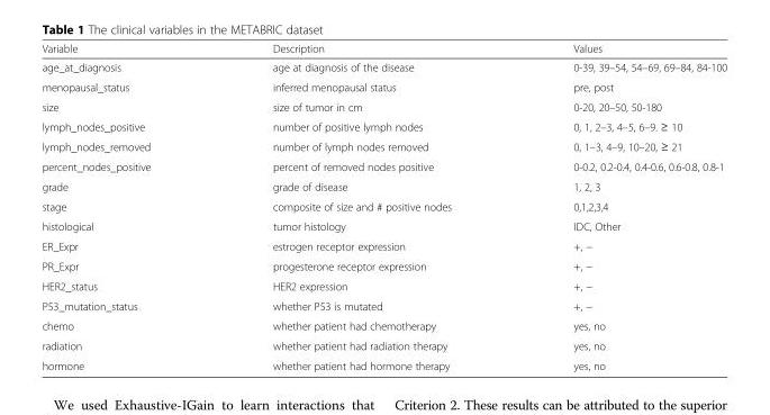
<table><thead><tr><td>Variable</td><td>Description</td><td>Values</td></tr></thead><tbody><tr><td>age_at_diagnosis</td><td>age at diagnosis of the disease</td><td>0-39, 39–54, 54–69, 69–84, 84-100</td></tr><tr><td>menopausal_status</td><td>inferred menopausal status</td><td>pre, post</td></tr><tr><td>size</td><td>size of tumor in cm</td><td>0-20, 20–50, 50-180</td></tr><tr><td>lymph_nodes_positive</td><td>number of positive lymph nodes</td><td>0, 1, 2–3, 4–5, 6–9. ≥ 10</td></tr><tr><td>lymph_nodes_removed</td><td>number of lymph nodes removed</td><td>0, 1–3, 4–9, 10–20, ≥ 21</td></tr><tr><td>percent_nodes_positive</td><td>percent of removed nodes positive</td><td>0-0.2, 0.2-0.4, 0.4-0.6, 0.6-0.8, 0.8-1</td></tr><tr><td>grade</td><td>grade of disease</td><td>1, 2, 3</td></tr><tr><td>stage</td><td>composite of size and # positive nodes</td><td>0,1,2,3,4</td></tr><tr><td>histological</td><td>tumor histology</td><td>IDC, Other</td></tr><tr><td>ER_Expr</td><td>estrogen receptor expression</td><td>+, −</td></tr><tr><td>PR_Expr</td><td>progesterone receptor expression</td><td>+, −</td></tr><tr><td>HER2_status</td><td>HER2 expression</td><td>+, −</td></tr><tr><td>P53_mutation_status</td><td>whether P53 is mutated</td><td>+, −</td></tr><tr><td>chemo</td><td>whether patient had chemotherapy</td><td>yes, no</td></tr><tr><td>radiation</td><td>whether patient had radiation therapy</td><td>yes, no</td></tr><tr><td>hormone</td><td>whether patient had hormone therapy</td><td>yes, no</td></tr></tbody></table>